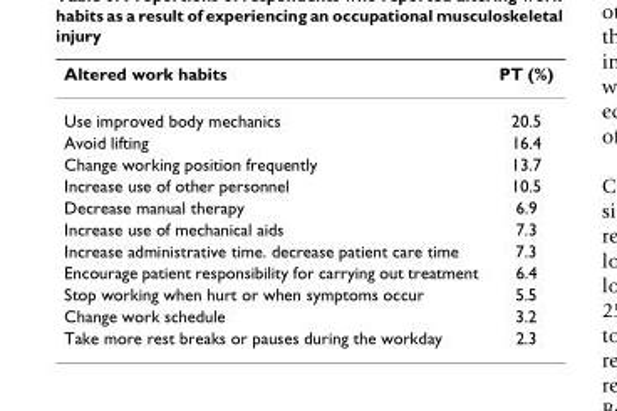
<table><thead><tr><td>Altered work habits</td><td>PT (%)</td></tr></thead><tbody><tr><td>Use improved body mechanics</td><td>20.5</td></tr><tr><td>Avoid lifting</td><td>16.4</td></tr><tr><td>Change working position frequently</td><td>13.7</td></tr><tr><td>Increase use of other personnel</td><td>10.5</td></tr><tr><td>Decrease manual therapy</td><td>6.9</td></tr><tr><td>Increase use of mechanical aids</td><td>7.3</td></tr><tr><td>Increase administrative time. decrease patient care time</td><td>7.3</td></tr><tr><td>Encourage patient responsibility for carrying out treatment</td><td>6.4</td></tr><tr><td>Stop working when hurt or when symptoms occur</td><td>5.5</td></tr><tr><td>Change work schedule</td><td>3.2</td></tr><tr><td>Take more rest breaks or pauses during the workday</td><td>2.3</td></tr></tbody></table>